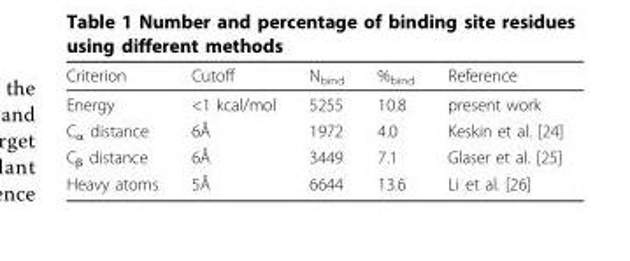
<table><thead><tr><td>Criterion</td><td>Cutoff</td><td>N<sub>bind</sub></td><td>%<sub>bind</sub></td><td>Reference</td></tr></thead><tbody><tr><td>Energy</td><td>&lt;1 kcal/mol</td><td>5255</td><td>10.8</td><td>present work</td></tr><tr><td>C<sub>α</sub> distance</td><td>6Å</td><td>1972</td><td>4.0</td><td>Keskin et al. [24]</td></tr><tr><td>C<sub>β</sub> distance</td><td>6Å</td><td>3449</td><td>7.1</td><td>Glaser et al. [25]</td></tr><tr><td>Heavy atoms</td><td>5Å</td><td>6644</td><td>13.6</td><td>Li et al. [26]</td></tr></tbody></table>